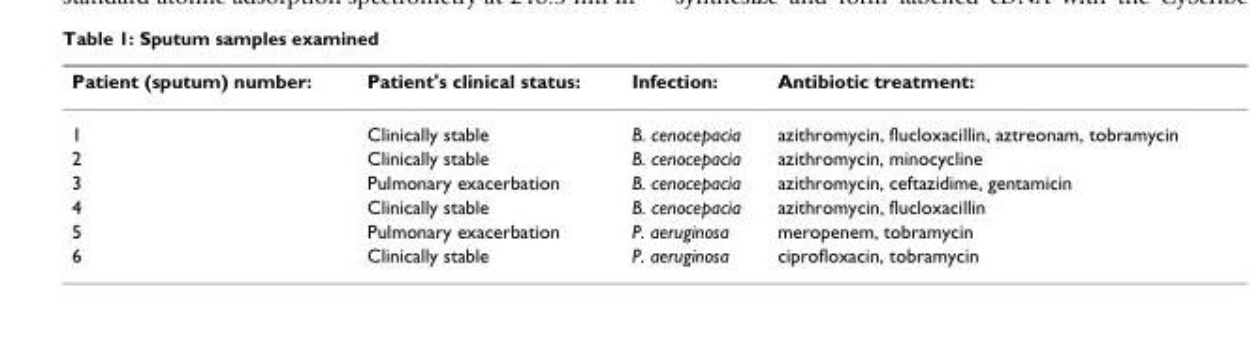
<table><thead><tr><td>Patient (sputum) number:</td><td>Patient&#x27;s clinical status:</td><td>Infection:</td><td>Antibiotic treatment:</td></tr></thead><tbody><tr><td>1</td><td>Clinically stable</td><td>B. cenocepacia</td><td>azithromycin, flucloxacillin, aztreonam, tobramycin</td></tr><tr><td>2</td><td>Clinically stable</td><td>B. cenocepacia</td><td>azithromycin, minocycline</td></tr><tr><td>3</td><td>Pulmonary exacerbation</td><td>B. cenocepacia</td><td>azithromycin, ceftazidime, gentamicin</td></tr><tr><td>4</td><td>Clinically stable</td><td>B. cenocepacia</td><td>azithromycin, flucloxacillin</td></tr><tr><td>5</td><td>Pulmonary exacerbation</td><td>P. aeruginosa</td><td>meropenem, tobramycin</td></tr><tr><td>6</td><td>Clinically stable</td><td>P. aeruginosa</td><td>ciprofloxacin, tobramycin</td></tr></tbody></table>